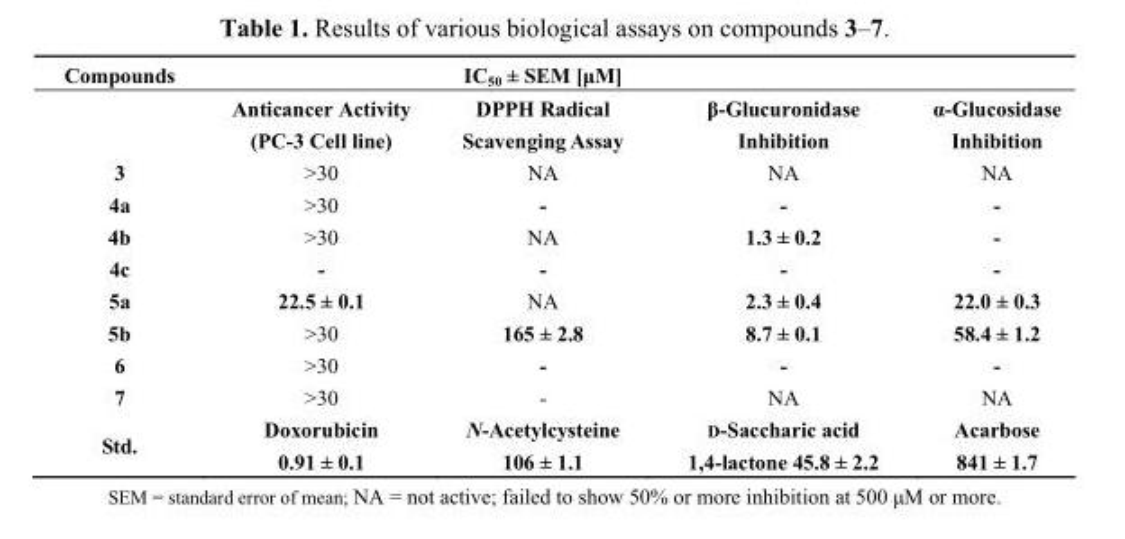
<table><thead><tr><td rowspan="2">Compounds</td><td colspan="3">IC<sub>50</sub> ± SEM [μM]</td><td rowspan="2">α-Glucosidase Inhibition</td></tr><tr><td>Anticancer Activity (PC-3 Cell line)</td><td>DPPH Radical Scavenging Assay</td><td>β-Glucuronidase Inhibition</td></tr></thead><tbody><tr><td>3</td><td>&gt;30</td><td>NA</td><td>NA</td><td>NA</td></tr><tr><td>4a</td><td>&gt;30</td><td>-</td><td>-</td><td>-</td></tr><tr><td>4b</td><td>&gt;30</td><td>NA</td><td>1.3 ± 0.2</td><td>-</td></tr><tr><td>4c</td><td>-</td><td>-</td><td>-</td><td>-</td></tr><tr><td>5a</td><td>22.5 ± 0.1</td><td>NA</td><td>2.3 ± 0.4</td><td>22.0 ± 0.3</td></tr><tr><td>5b</td><td>&gt;30</td><td>165 ± 2.8</td><td>8.7 ± 0.1</td><td>58.4 ± 1.2</td></tr><tr><td>6</td><td>&gt;30</td><td>-</td><td>-</td><td>-</td></tr><tr><td>7</td><td>&gt;30</td><td>-</td><td>NA</td><td>NA</td></tr><tr><td rowspan="2">Std.</td><td>Doxorubicin</td><td>N-Acetylcysteine</td><td>D-Saccharic acid</td><td>Acarbose</td></tr><tr><td>0.91 ± 0.1</td><td>106 ± 1.1</td><td>1,4-lactone 45.8 ± 2.2</td><td>841 ± 1.7</td></tr></tbody></table>